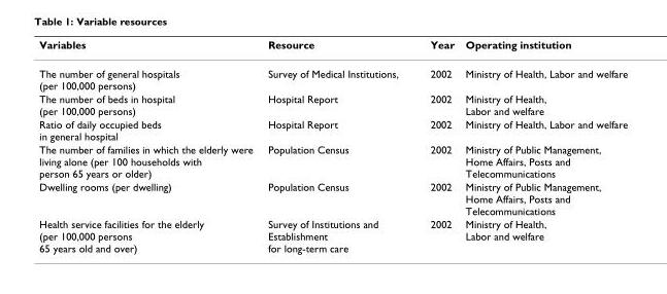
<table><thead><tr><td>Variables</td><td>Resource</td><td>Year</td><td>Operating institution</td></tr></thead><tbody><tr><td>The number of general hospitals (per 100,000 persons)</td><td>Survey of Medical Institutions,</td><td>2002</td><td>Ministry of Health, Labor and welfare</td></tr><tr><td>The number of beds in hospital (per 100,000 persons)</td><td>Hospital Report</td><td>2002</td><td>Ministry of Health, Labor and welfare</td></tr><tr><td>Ratio of daily occupied beds in general hospital</td><td>Hospital Report</td><td>2002</td><td>Ministry of Health, Labor and welfare</td></tr><tr><td>The number of families in which the elderly were living alone (per 100 households with person 65 years or older)</td><td>Population Census</td><td>2002</td><td>Ministry of Public Management, Home Affairs, Posts and Telecommunications</td></tr><tr><td>Dwelling rooms (per dwelling)</td><td>Population Census</td><td>2002</td><td>Ministry of Public Management, Home Affairs, Posts and Telecommunications</td></tr><tr><td>Health service facilities for the elderly (per 100,000 persons 65 years old and over)</td><td>Survey of Institutions and Establishment for long-term care</td><td>2002</td><td>Ministry of Health, Labor and welfare</td></tr></tbody></table>